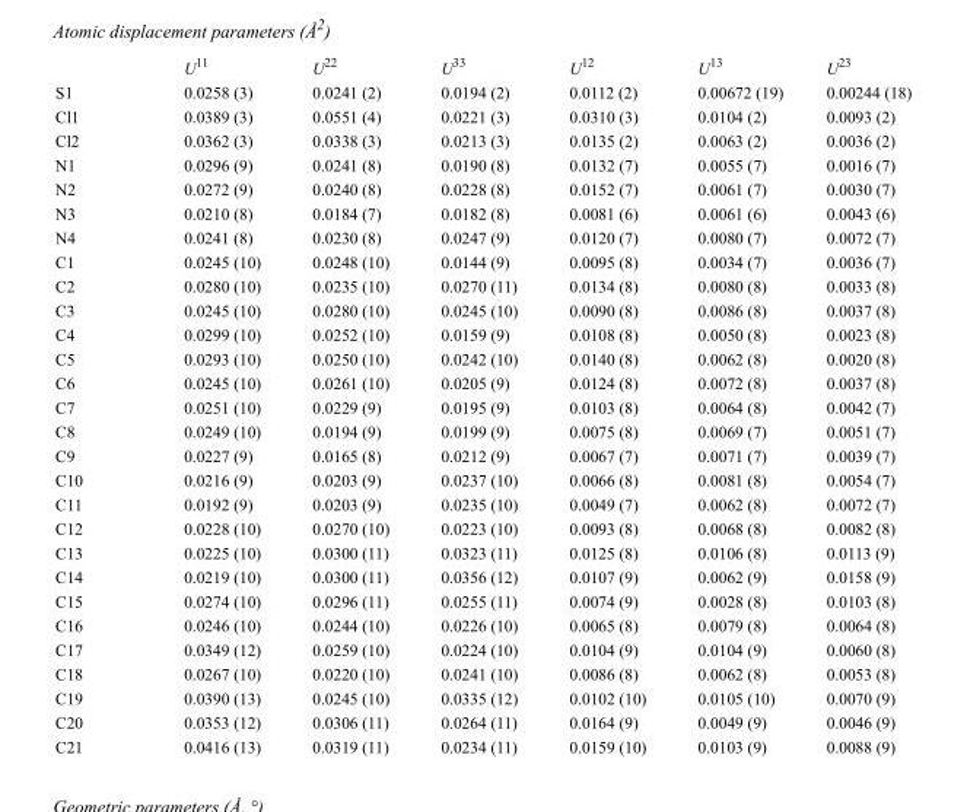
<table><thead><tr><td></td><td>U<sup>11</sup></td><td>U<sup>22</sup></td><td>U<sup>33</sup></td><td>U<sup>12</sup></td><td>U<sup>13</sup></td><td>U<sup>23</sup></td></tr></thead><tbody><tr><td>S1</td><td>0.0258 (3)</td><td>0.0241 (2)</td><td>0.0194 (2)</td><td>0.0112 (2)</td><td>0.00672 (19)</td><td>0.00244 (18)</td></tr><tr><td>Cl1</td><td>0.0389 (3)</td><td>0.0551 (4)</td><td>0.0221 (3)</td><td>0.0310 (3)</td><td>0.0104 (2)</td><td>0.0093 (2)</td></tr><tr><td>Cl2</td><td>0.0362 (3)</td><td>0.0338 (3)</td><td>0.0213 (3)</td><td>0.0135 (2)</td><td>0.0063 (2)</td><td>0.0036 (2)</td></tr><tr><td>N1</td><td>0.0296 (9)</td><td>0.0241 (8)</td><td>0.0190 (8)</td><td>0.0132 (7)</td><td>0.0055 (7)</td><td>0.0016 (7)</td></tr><tr><td>N2</td><td>0.0272 (9)</td><td>0.0240 (8)</td><td>0.0228 (8)</td><td>0.0152 (7)</td><td>0.0061 (7)</td><td>0.0030 (7)</td></tr><tr><td>N3</td><td>0.0210 (8)</td><td>0.0184 (7)</td><td>0.0182 (8)</td><td>0.0081 (6)</td><td>0.0061 (6)</td><td>0.0043 (6)</td></tr><tr><td>N4</td><td>0.0241 (8)</td><td>0.0230 (8)</td><td>0.0247 (9)</td><td>0.0120 (7)</td><td>0.0080 (7)</td><td>0.0072 (7)</td></tr><tr><td>C1</td><td>0.0245 (10)</td><td>0.0248 (10)</td><td>0.0144 (9)</td><td>0.0095 (8)</td><td>0.0034 (7)</td><td>0.0036 (7)</td></tr><tr><td>C2</td><td>0.0280 (10)</td><td>0.0235 (10)</td><td>0.0270 (11)</td><td>0.0134 (8)</td><td>0.0080 (8)</td><td>0.0033 (8)</td></tr><tr><td>C3</td><td>0.0245 (10)</td><td>0.0280 (10)</td><td>0.0245 (10)</td><td>0.0090 (8)</td><td>0.0086 (8)</td><td>0.0037 (8)</td></tr><tr><td>C4</td><td>0.0299 (10)</td><td>0.0252 (10)</td><td>0.0159 (9)</td><td>0.0108 (8)</td><td>0.0050 (8)</td><td>0.0023 (8)</td></tr><tr><td>C5</td><td>0.0293 (10)</td><td>0.0250 (10)</td><td>0.0242 (10)</td><td>0.0140 (8)</td><td>0.0062 (8)</td><td>0.0020 (8)</td></tr><tr><td>C6</td><td>0.0245 (10)</td><td>0.0261 (10)</td><td>0.0205 (9)</td><td>0.0124 (8)</td><td>0.0072 (8)</td><td>0.0037 (8)</td></tr><tr><td>C7</td><td>0.0251 (10)</td><td>0.0229 (9)</td><td>0.0195 (9)</td><td>0.0103 (8)</td><td>0.0064 (8)</td><td>0.0042 (7)</td></tr><tr><td>C8</td><td>0.0249 (10)</td><td>0.0194 (9)</td><td>0.0199 (9)</td><td>0.0075 (8)</td><td>0.0069 (7)</td><td>0.0051 (7)</td></tr><tr><td>C9</td><td>0.0227 (9)</td><td>0.0165 (8)</td><td>0.0212 (9)</td><td>0.0067 (7)</td><td>0.0071 (7)</td><td>0.0039 (7)</td></tr><tr><td>C10</td><td>0.0216 (9)</td><td>0.0203 (9)</td><td>0.0237 (10)</td><td>0.0066 (8)</td><td>0.0081 (8)</td><td>0.0054 (7)</td></tr><tr><td>C11</td><td>0.0192 (9)</td><td>0.0203 (9)</td><td>0.0235 (10)</td><td>0.0049 (7)</td><td>0.0062 (8)</td><td>0.0072 (7)</td></tr><tr><td>C12</td><td>0.0228 (10)</td><td>0.0270 (10)</td><td>0.0223 (10)</td><td>0.0093 (8)</td><td>0.0068 (8)</td><td>0.0082 (8)</td></tr><tr><td>C13</td><td>0.0225 (10)</td><td>0.0300 (11)</td><td>0.0323 (11)</td><td>0.0125 (8)</td><td>0.0106 (8)</td><td>0.0113 (9)</td></tr><tr><td>C14</td><td>0.0219 (10)</td><td>0.0300 (11)</td><td>0.0356 (12)</td><td>0.0107 (9)</td><td>0.0062 (9)</td><td>0.0158 (9)</td></tr><tr><td>C15</td><td>0.0274 (10)</td><td>0.0296 (11)</td><td>0.0255 (11)</td><td>0.0074 (9)</td><td>0.0028 (8)</td><td>0.0103 (8)</td></tr><tr><td>C16</td><td>0.0246 (10)</td><td>0.0244 (10)</td><td>0.0226 (10)</td><td>0.0065 (8)</td><td>0.0079 (8)</td><td>0.0064 (8)</td></tr><tr><td>C17</td><td>0.0349 (12)</td><td>0.0259 (10)</td><td>0.0224 (10)</td><td>0.0104 (9)</td><td>0.0104 (9)</td><td>0.0060 (8)</td></tr><tr><td>C18</td><td>0.0267 (10)</td><td>0.0220 (10)</td><td>0.0241 (10)</td><td>0.0086 (8)</td><td>0.0062 (8)</td><td>0.0053 (8)</td></tr><tr><td>C19</td><td>0.0390 (13)</td><td>0.0245 (10)</td><td>0.0335 (12)</td><td>0.0102 (10)</td><td>0.0105 (10)</td><td>0.0070 (9)</td></tr><tr><td>C20</td><td>0.0353 (12)</td><td>0.0306 (11)</td><td>0.0264 (11)</td><td>0.0164 (9)</td><td>0.0049 (9)</td><td>0.0046 (9)</td></tr><tr><td>C21</td><td>0.0416 (13)</td><td>0.0319 (11)</td><td>0.0234 (11)</td><td>0.0159 (10)</td><td>0.0103 (9)</td><td>0.0088 (9)</td></tr></tbody></table>